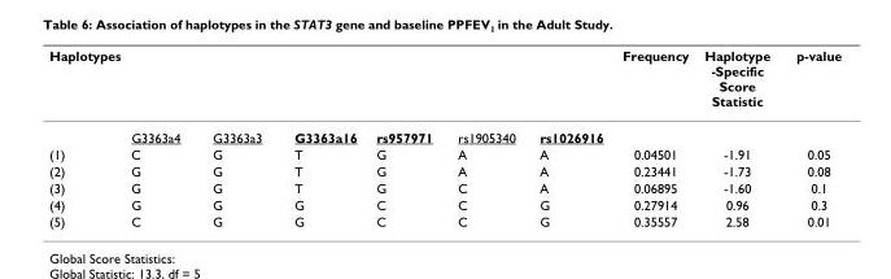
<table><thead><tr><td colspan="7">Haplotypes</td><td rowspan="2">Frequency</td><td rowspan="2">Haplotype -Specific Score Statistic</td><td rowspan="2">p-value</td></tr><tr><td></td><td>G3363a4</td><td>G3363a3</td><td>G3363a16</td><td>rs957971</td><td>rs1905340</td><td>rs1026916</td></tr></thead><tbody><tr><td>(1)</td><td>C</td><td>G</td><td>T</td><td>G</td><td>A</td><td>A</td><td>0.04501</td><td>-1.91</td><td>0.05</td></tr><tr><td>(2)</td><td>G</td><td>G</td><td>T</td><td>G</td><td>A</td><td>A</td><td>0.23441</td><td>-1.73</td><td>0.08</td></tr><tr><td>(3)</td><td>G</td><td>G</td><td>T</td><td>G</td><td>C</td><td>A</td><td>0.06895</td><td>-1.60</td><td>0.1</td></tr><tr><td>(4)</td><td>G</td><td>G</td><td>G</td><td>C</td><td>C</td><td>G</td><td>0.27914</td><td>0.96</td><td>0.3</td></tr><tr><td>(5)</td><td>C</td><td>G</td><td>G</td><td>C</td><td>C</td><td>G</td><td>0.35557</td><td>2.58</td><td>0.01</td></tr></tbody></table>